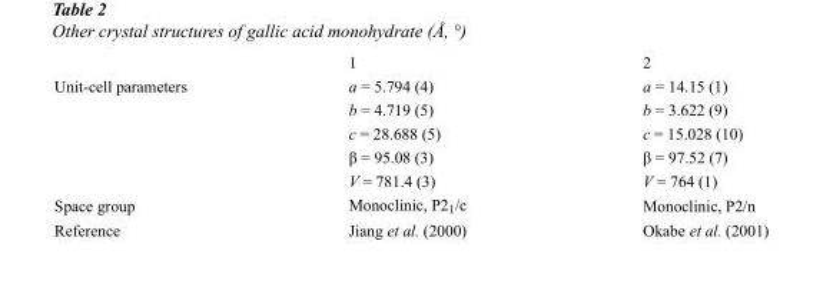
<table><thead><tr><td></td><td>1</td><td>2</td></tr></thead><tbody><tr><td rowspan="5">Unit-cell parameters</td><td>a = 5.794 (4)</td><td>a = 14.15 (1)</td></tr><tr><td>b = 4.719 (5)</td><td>b = 3.622 (9)</td></tr><tr><td>c = 28.688 (5)</td><td>c = 15.028 (10)</td></tr><tr><td>β = 95.08 (3)</td><td>β = 97.52 (7)</td></tr><tr><td>V = 781.4 (3)</td><td>V = 764 (1)</td></tr><tr><td>Space group</td><td>Monoclinic, P2<sub>1</sub>/c</td><td>Monoclinic, P2/n</td></tr><tr><td>Reference</td><td>Jiang et al. (2000)</td><td>Okabe et al. (2001)</td></tr></tbody></table>